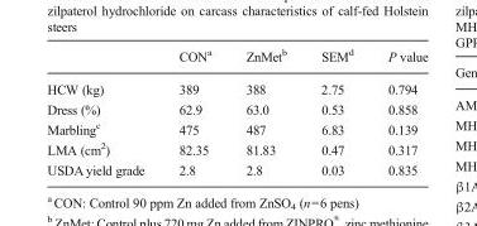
<table><thead><tr><td></td><td>CON<sup>a</sup></td><td>ZnMet<sup>b</sup></td><td>SEM<sup>d</sup></td><td>P value</td></tr></thead><tbody><tr><td>HCW (kg)</td><td>389</td><td>388</td><td>2.75</td><td>0.794</td></tr><tr><td>Dress (%)</td><td>62.9</td><td>63.0</td><td>0.53</td><td>0.858</td></tr><tr><td>Marbling<sup>c</sup></td><td>475</td><td>487</td><td>6.83</td><td>0.139</td></tr><tr><td>LMA (cm<sup>2</sup>)</td><td>82.35</td><td>81.83</td><td>0.47</td><td>0.317</td></tr><tr><td>USDA yield grade</td><td>2.8</td><td>2.8</td><td>0.03</td><td>0.835</td></tr></tbody></table>